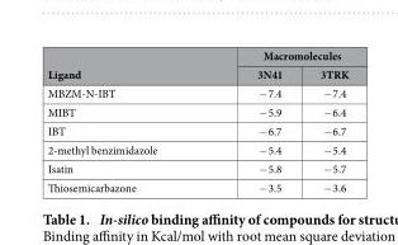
<table><thead><tr><td rowspan="2">Ligand</td><td colspan="2">Macromolecules</td></tr><tr><td>3N41</td><td>3TRK</td></tr></thead><tbody><tr><td>MBZM-N-IBT</td><td>− 7.4</td><td>− 7.4</td></tr><tr><td>MIBT</td><td>− 5.9</td><td>− 6.4</td></tr><tr><td>IBT</td><td>− 6.7</td><td>− 6.7</td></tr><tr><td>2-methyl benzimidazole</td><td>− 5.4</td><td>− 5.4</td></tr><tr><td>Isatin</td><td>− 5.8</td><td>− 5.7</td></tr><tr><td>Thiosemicarbazone</td><td>− 3.5</td><td>− 3.6</td></tr></tbody></table>